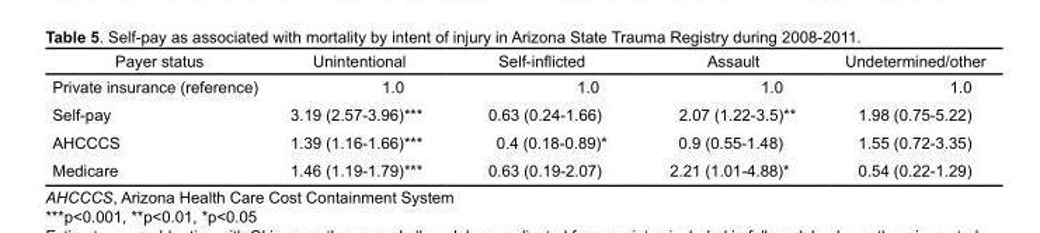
<table><thead><tr><td>Payer status</td><td>Unintentional</td><td>Self-inflicted</td><td>Assault</td><td>Undetermined/other</td></tr></thead><tbody><tr><td>Private insurance (reference)</td><td>1.0</td><td>1.0</td><td>1.0</td><td>1.0</td></tr><tr><td>Self-pay</td><td>3.19 (2.57-3.96)***</td><td>0.63 (0.24-1.66)</td><td>2.07 (1.22-3.5)**</td><td>1.98 (0.75-5.22)</td></tr><tr><td>AHCCCS</td><td>1.39 (1.16-1.66)***</td><td>0.4 (0.18-0.89)*</td><td>0.9 (0.55-1.48)</td><td>1.55 (0.72-3.35)</td></tr><tr><td>Medicare</td><td>1.46 (1.19-1.79)***</td><td>0.63 (0.19-2.07)</td><td>2.21 (1.01-4.88)*</td><td>0.54 (0.22-1.29)</td></tr></tbody></table>